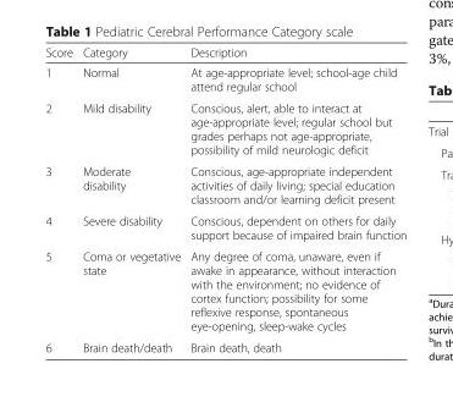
<table><thead><tr><td>Score</td><td>Category</td><td>Description</td></tr></thead><tbody><tr><td>1</td><td>Normal</td><td>At age-appropriate level; school-age child attend regular school</td></tr><tr><td>2</td><td>Mild disability</td><td>Conscious, alert, able to interact at age-appropriate level; regular school but grades perhaps not age-appropriate, possibility of mild neurologic deficit</td></tr><tr><td>3</td><td>Moderate disability</td><td>Conscious, age-appropriate independent activities of daily living; special education classroom and/or learning deficit present</td></tr><tr><td>4</td><td>Severe disability</td><td>Conscious, dependent on others for daily support because of impaired brain function</td></tr><tr><td>5</td><td>Coma or vegetative state</td><td>Any degree of coma, unaware, even if awake in appearance, without interaction with the environment; no evidence of cortex function; possibility for some reflexive response, spontaneous eye-opening, sleep-wake cycles</td></tr><tr><td>6</td><td>Brain death/death</td><td>Brain death, death</td></tr></tbody></table>